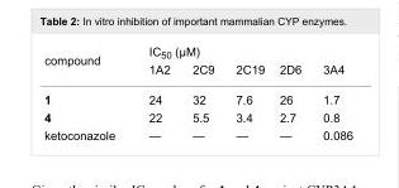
<table><tbody><tr><td rowspan="2">compound</td><td colspan="5">IC<sub>50</sub> (μM)</td></tr><tr><td>1A2</td><td>2C9</td><td>2C19</td><td>2D6</td><td>3A4</td></tr><tr><td>1</td><td>24</td><td>32</td><td>7.6</td><td>26</td><td>1.7</td></tr><tr><td>4</td><td>22</td><td>5.5</td><td>3.4</td><td>2.7</td><td>0.8</td></tr><tr><td>ketoconazole</td><td>—</td><td>—</td><td>—</td><td>—</td><td>0.086</td></tr></tbody></table>